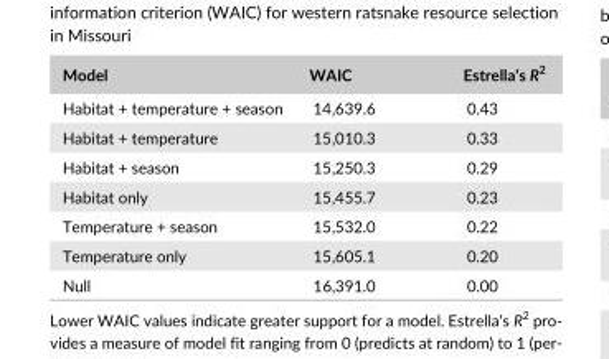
<table><thead><tr><td>Model</td><td>WAIC</td><td>Estrella’s R<sup>2</sup></td></tr></thead><tbody><tr><td>Habitat + temperature + season</td><td>14,639.6</td><td>0.43</td></tr><tr><td>Habitat + temperature</td><td>15,010.3</td><td>0.33</td></tr><tr><td>Habitat + season</td><td>15,250.3</td><td>0.29</td></tr><tr><td>Habitat only</td><td>15,455.7</td><td>0.23</td></tr><tr><td>Temperature + season</td><td>15,532.0</td><td>0.22</td></tr><tr><td>Temperature only</td><td>15,605.1</td><td>0.20</td></tr><tr><td>Null</td><td>16,391.0</td><td>0.00</td></tr></tbody></table>